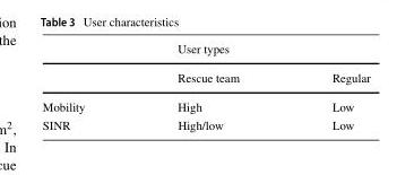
<table><thead><tr><td rowspan="2"></td><td colspan="2">User types</td></tr><tr><td>Rescue team</td><td>Regular</td></tr></thead><tbody><tr><td>Mobility</td><td>High</td><td>Low</td></tr><tr><td>SINR</td><td>High/low</td><td>Low</td></tr></tbody></table>